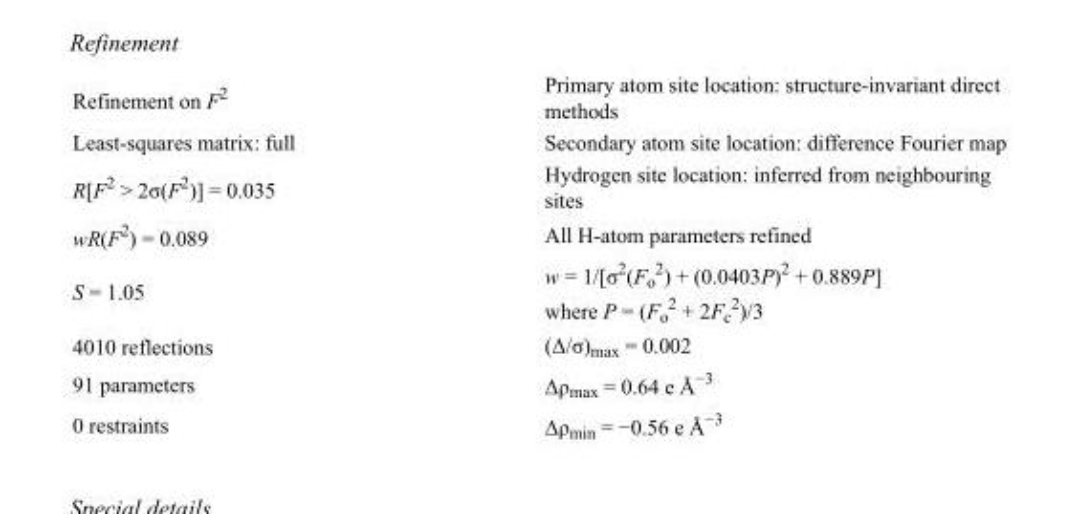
<table><tbody><tr><td>Refinement on F<sup>2</sup></td><td>Primary atom site location: structure-invariant direct methods</td></tr><tr><td>Least-squares matrix: full</td><td>Secondary atom site location: difference Fourier map</td></tr><tr><td>R[F<sup>2</sup> &gt; 2σ(F<sup>2</sup>)] = 0.035</td><td>Hydrogen site location: inferred from neighbouring sites</td></tr><tr><td>wR(F<sup>2</sup>) = 0.089</td><td>All H-atom parameters refined</td></tr><tr><td>S = 1.05</td><td>w = 1/[σ<sup>2</sup>(F<sub>o</sub> <sup>2</sup>) + (0.0403P)<sup>2</sup> + 0.889P] where P = (F<sub>o</sub> <sup>2</sup> + 2F<sub>c</sub> <sup>2</sup>)/3</td></tr><tr><td>4010 reflections</td><td>(Δ/σ)<sub>max</sub> = 0.002</td></tr><tr><td>91 parameters</td><td>Δρ<sub>max</sub> = 0.64 e Å<sup>−3</sup></td></tr><tr><td>0 restraints</td><td>Δρ<sub>min</sub> = −0.56 e Å<sup>−3</sup></td></tr></tbody></table>